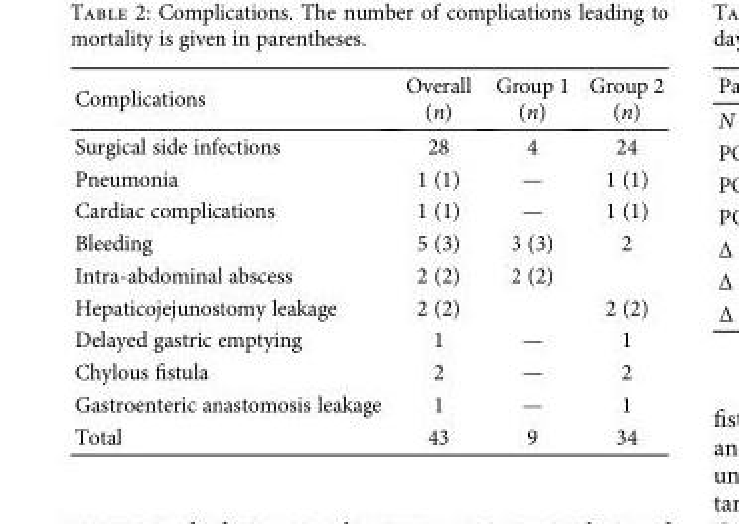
<table><thead><tr><td>Complications</td><td>Overall (n)</td><td>Group 1 (n)</td><td>Group 2 (n)</td></tr></thead><tbody><tr><td>Surgical side infections</td><td>28</td><td>4</td><td>24</td></tr><tr><td>Pneumonia</td><td>1 (1)</td><td>—</td><td>1 (1)</td></tr><tr><td>Cardiac complications</td><td>1 (1)</td><td>—</td><td>1 (1)</td></tr><tr><td>Bleeding</td><td>5 (3)</td><td>3 (3)</td><td>2</td></tr><tr><td>Intra-abdominal abscess</td><td>2 (2)</td><td>2 (2)</td><td></td></tr><tr><td>Hepaticojejunostomy leakage</td><td>2 (2)</td><td></td><td>2 (2)</td></tr><tr><td>Delayed gastric emptying</td><td>1</td><td>—</td><td>1</td></tr><tr><td>Chylous fistula</td><td>2</td><td>—</td><td>2</td></tr><tr><td>Gastroenteric anastomosis leakage</td><td>1</td><td>—</td><td>1</td></tr><tr><td>Total</td><td>43</td><td>9</td><td>34</td></tr></tbody></table>